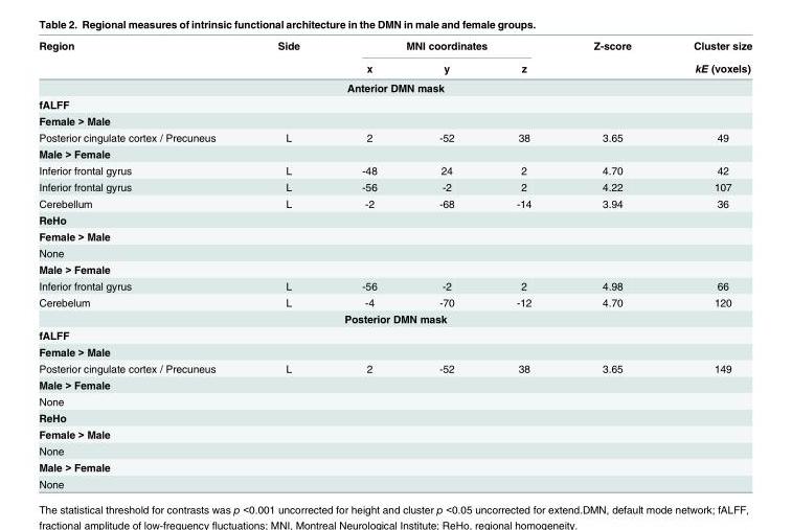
<table><thead><tr><td rowspan="2">Region</td><td rowspan="2">Side</td><td colspan="3">MNI coordinates</td><td rowspan="2">Z-score</td><td rowspan="2">Cluster size kE (voxels)</td></tr><tr><td>x</td><td>y</td><td>z</td></tr></thead><tbody><tr><td colspan="7">Anterior DMN mask</td></tr><tr><td colspan="7">fALFF</td></tr><tr><td colspan="7">Female &gt; Male</td></tr><tr><td>Posterior cingulate cortex / Precuneus</td><td>L</td><td>2</td><td>-52</td><td>38</td><td>3.65</td><td>49</td></tr><tr><td colspan="7">Male &gt; Female</td></tr><tr><td>Inferior frontal gyrus</td><td>L</td><td>-48</td><td>24</td><td>2</td><td>4.70</td><td>42</td></tr><tr><td>Inferior frontal gyrus</td><td>L</td><td>-56</td><td>-2</td><td>2</td><td>4.22</td><td>107</td></tr><tr><td>Cerebellum</td><td>L</td><td>-2</td><td>-68</td><td>-14</td><td>3.94</td><td>36</td></tr><tr><td colspan="7">ReHo</td></tr><tr><td colspan="7">Female &gt; Male</td></tr><tr><td colspan="7">None</td></tr><tr><td colspan="7">Male &gt; Female</td></tr><tr><td>Inferior frontal gyrus</td><td>L</td><td>-56</td><td>-2</td><td>2</td><td>4.98</td><td>66</td></tr><tr><td>Cerebelum</td><td>L</td><td>-4</td><td>-70</td><td>-12</td><td>4.70</td><td>120</td></tr><tr><td colspan="7">Posterior DMN mask</td></tr><tr><td colspan="7">fALFF</td></tr><tr><td colspan="7">Female &gt; Male</td></tr><tr><td>Posterior cingulate cortex / Precuneus</td><td>L</td><td>2</td><td>-52</td><td>38</td><td>3.65</td><td>149</td></tr><tr><td colspan="7">Male &gt; Female</td></tr><tr><td colspan="7">None</td></tr><tr><td colspan="7">ReHo</td></tr><tr><td colspan="7">Female &gt; Male</td></tr><tr><td colspan="7">None</td></tr><tr><td colspan="7">Male &gt; Female</td></tr><tr><td colspan="7">None</td></tr></tbody></table>